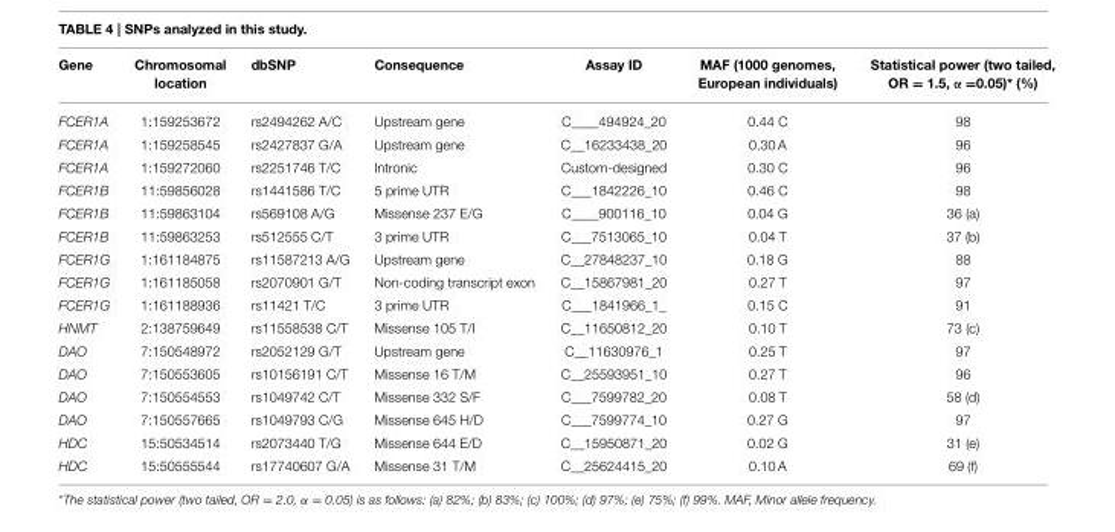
<table><thead><tr><td>Gene</td><td>Chromosomal location</td><td>dbSNP</td><td>Consequence</td><td>Assay ID</td><td>MAF (1000 genomes, European individuals)</td><td>Statistical power (two tailed, OR = 1.5, α =0.05)* (%)</td></tr></thead><tbody><tr><td>FCER1A</td><td>1:159253672</td><td>rs2494262 A/C</td><td>Upstream gene</td><td>C____494924_20</td><td>0.44 C</td><td>98</td></tr><tr><td>FCER1A</td><td>1:159258545</td><td>rs2427837 G/A</td><td>Upstream gene</td><td>C__16233438_20</td><td>0.30 A</td><td>96</td></tr><tr><td>FCER1A</td><td>1:159272060</td><td>rs2251746 T/C</td><td>Intronic</td><td>Custom-designed</td><td>0.30 C</td><td>96</td></tr><tr><td>FCER1B</td><td>11:59856028</td><td>rs1441586 T/C</td><td>5 prime UTR</td><td>C___1842226_10</td><td>0.46 C</td><td>98</td></tr><tr><td>FCER1B</td><td>11:59863104</td><td>rs569108 A/G</td><td>Missense 237 E/G</td><td>C____900116_10</td><td>0.04 G</td><td>36 (a)</td></tr><tr><td>FCER1B</td><td>11:59863253</td><td>rs512555 C/T</td><td>3 prime UTR</td><td>C___7513065_10</td><td>0.04 T</td><td>37 (b)</td></tr><tr><td>FCER1G</td><td>1:161184875</td><td>rs11587213 A/G</td><td>Upstream gene</td><td>C__27848237_10</td><td>0.18 G</td><td>88</td></tr><tr><td>FCER1G</td><td>1:161185058</td><td>rs2070901 G/T</td><td>Non-coding transcript exon</td><td>C__15867981_20</td><td>0.27 T</td><td>97</td></tr><tr><td>FCER1G</td><td>1:161188936</td><td>rs11421 T/C</td><td>3 prime UTR</td><td>C___1841966_1_</td><td>0.15 C</td><td>91</td></tr><tr><td>HNMT</td><td>2:138759649</td><td>rs11558538 C/T</td><td>Missense 105 T/I</td><td>C__11650812_20</td><td>0.10 T</td><td>73 (c)</td></tr><tr><td>DAO</td><td>7:150548972</td><td>rs2052129 G/T</td><td>Upstream gene</td><td>C__11630976_1</td><td>0.25 T</td><td>97</td></tr><tr><td>DAO</td><td>7:150553605</td><td>rs10156191 C/T</td><td>Missense 16 T/M</td><td>C__25593951_10</td><td>0.27 T</td><td>96</td></tr><tr><td>DAO</td><td>7:150554553</td><td>rs1049742 C/T</td><td>Missense 332 S/F</td><td>C___7599782_20</td><td>0.08 T</td><td>58 (d)</td></tr><tr><td>DAO</td><td>7:150557665</td><td>rs1049793 C/G</td><td>Missense 645 H/D</td><td>C___7599774_10</td><td>0.27 G</td><td>97</td></tr><tr><td>HDC</td><td>15:50534514</td><td>rs2073440 T/G</td><td>Missense 644 E/D</td><td>C__15950871_20</td><td>0.02 G</td><td>31 (e)</td></tr><tr><td>HDC</td><td>15:50555544</td><td>rs17740607 G/A</td><td>Missense 31 T/M</td><td>C__25624415_20</td><td>0.10 A</td><td>69 (f)</td></tr></tbody></table>